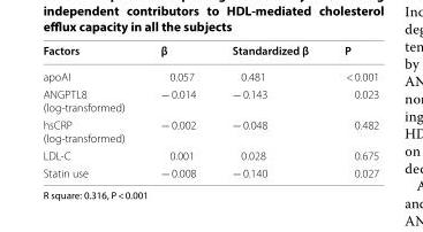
<table><thead><tr><td>Factors</td><td>β</td><td>Standardized β</td><td>P</td></tr></thead><tbody><tr><td>apoAI</td><td>0.057</td><td>0.481</td><td>&lt; 0.001</td></tr><tr><td>ANGPTL8 (log-transformed)</td><td>− 0.014</td><td>− 0.143</td><td>0.023</td></tr><tr><td>hsCRP (log-transformed)</td><td>− 0.002</td><td>− 0.048</td><td>0.482</td></tr><tr><td>LDL-C</td><td>0.001</td><td>0.028</td><td>0.675</td></tr><tr><td>Statin use</td><td>− 0.008</td><td>− 0.140</td><td>0.027</td></tr></tbody></table>